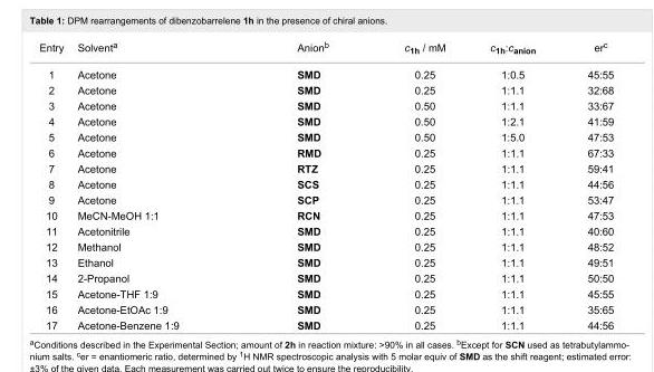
<table><tbody><tr><td>Entry</td><td>Solvent<sup>a</sup></td><td>Anion<sup>b</sup></td><td>c<sub>1h</sub> / mM</td><td>c<sub>1h</sub>:c<sub>anion</sub></td><td>er<sup>c</sup></td></tr><tr><td>1</td><td>Acetone</td><td>SMD</td><td>0.25</td><td>1:0.5</td><td>45:55</td></tr><tr><td>2</td><td>Acetone</td><td>SMD</td><td>0.25</td><td>1:1.1</td><td>32:68</td></tr><tr><td>3</td><td>Acetone</td><td>SMD</td><td>0.50</td><td>1:1.1</td><td>33:67</td></tr><tr><td>4</td><td>Acetone</td><td>SMD</td><td>0.50</td><td>1:2.1</td><td>41:59</td></tr><tr><td>5</td><td>Acetone</td><td>SMD</td><td>0.50</td><td>1:5.0</td><td>47:53</td></tr><tr><td>6</td><td>Acetone</td><td>RMD</td><td>0.25</td><td>1:1.1</td><td>67:33</td></tr><tr><td>7</td><td>Acetone</td><td>RTZ</td><td>0.25</td><td>1:1.1</td><td>59:41</td></tr><tr><td>8</td><td>Acetone</td><td>SCS</td><td>0.25</td><td>1:1.1</td><td>44:56</td></tr><tr><td>9</td><td>Acetone</td><td>SCP</td><td>0.25</td><td>1:1.1</td><td>53:47</td></tr><tr><td>10</td><td>MeCN-MeOH 1:1</td><td>RCN</td><td>0.25</td><td>1:1.1</td><td>47:53</td></tr><tr><td>11</td><td>Acetonitrile</td><td>SMD</td><td>0.25</td><td>1:1.1</td><td>40:60</td></tr><tr><td>12</td><td>Methanol</td><td>SMD</td><td>0.25</td><td>1:1.1</td><td>48:52</td></tr><tr><td>13</td><td>Ethanol</td><td>SMD</td><td>0.25</td><td>1:1.1</td><td>49:51</td></tr><tr><td>14</td><td>2-Propanol</td><td>SMD</td><td>0.25</td><td>1:1.1</td><td>50:50</td></tr><tr><td>15</td><td>Acetone-THF 1:9</td><td>SMD</td><td>0.25</td><td>1:1.1</td><td>45:55</td></tr><tr><td>16</td><td>Acetone-EtOAc 1:9</td><td>SMD</td><td>0.25</td><td>1:1.1</td><td>35:65</td></tr><tr><td>17</td><td>Acetone-Benzene 1:9</td><td>SMD</td><td>0.25</td><td>1:1.1</td><td>44:56</td></tr></tbody></table>